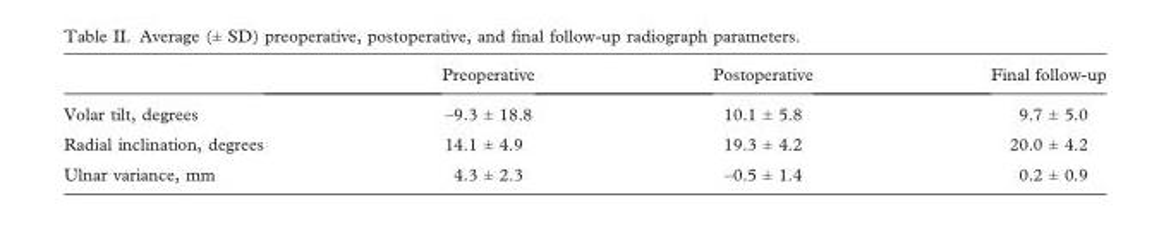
<table><thead><tr><td></td><td>Preoperative</td><td>Postoperative</td><td>Final follow-up</td></tr></thead><tbody><tr><td>Volar tilt, degrees</td><td>–9.3 ± 18.8</td><td>10.1 ± 5.8</td><td>9.7 ± 5.0</td></tr><tr><td>Radial inclination, degrees</td><td>14.1 ± 4.9</td><td>19.3 ± 4.2</td><td>20.0 ± 4.2</td></tr><tr><td>Ulnar variance, mm</td><td>4.3 ± 2.3</td><td>–0.5 ± 1.4</td><td>0.2 ± 0.9</td></tr></tbody></table>